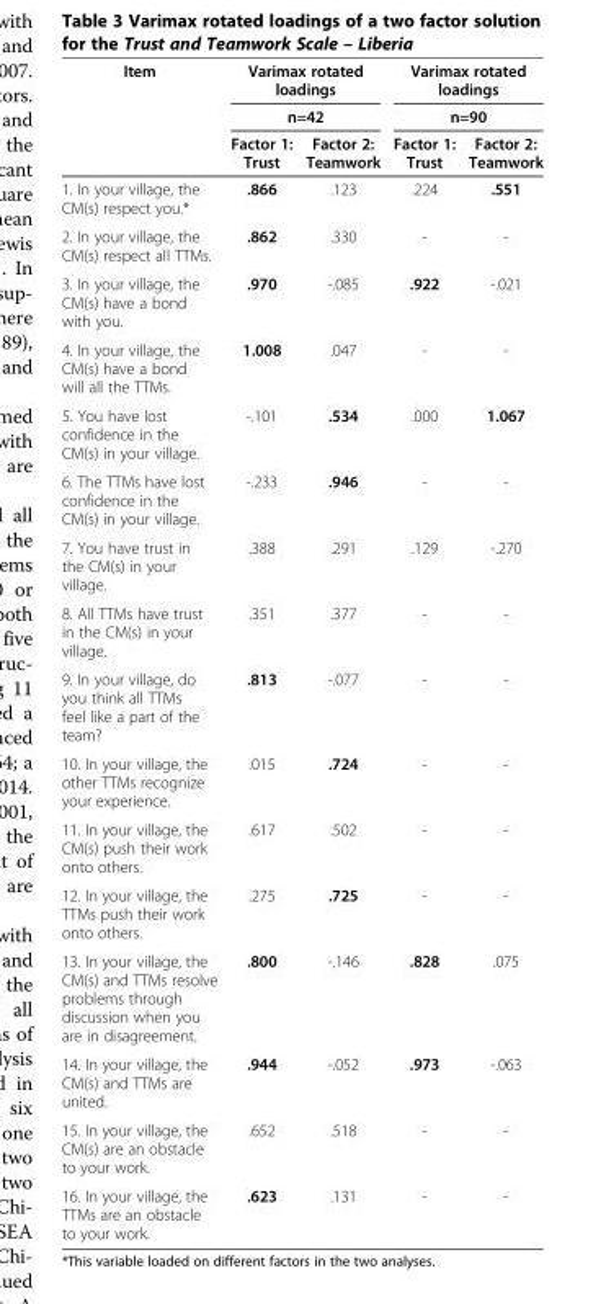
<table><thead><tr><td rowspan="3">Item</td><td rowspan="2" colspan="2">Varimax rotated loadings n=42</td><td rowspan="2" colspan="2">Varimax rotated loadings n=90</td></tr><tr></tr><tr><td>Factor 1: Trust</td><td>Factor 2: Teamwork</td><td>Factor 1: Trust</td><td>Factor 2: Teamwork</td></tr></thead><tbody><tr><td>1. In your village, the CM(s) respect you.*</td><td>.866</td><td>.123</td><td>.224</td><td>.551</td></tr><tr><td>2. In your village, the CM(s) respect all TTMs.</td><td>.862</td><td>.330</td><td>-</td><td>-</td></tr><tr><td>3. In your village, the CM(s) have a bond with you.</td><td>.970</td><td>-.085</td><td>.922</td><td>-.021</td></tr><tr><td>4. In your village, the CM(s) have a bond will all the TTMs.</td><td>1.008</td><td>.047</td><td>-</td><td>-</td></tr><tr><td>5. You have lost confidence in the CM(s) in your village.</td><td>-.101</td><td>.534</td><td>.000</td><td>1.067</td></tr><tr><td>6. The TTMs have lost confidence in the CM(s) in your village.</td><td>-.233</td><td>.946</td><td>-</td><td>-</td></tr><tr><td>7. You have trust in the CM(s) in your village.</td><td>.388</td><td>.291</td><td>.129</td><td>-.270</td></tr><tr><td>8. All TTMs have trust in the CM(s) in your village.</td><td>.351</td><td>.377</td><td>-</td><td>-</td></tr><tr><td>9. In your village, do you think all TTMs feel like a part of the team?</td><td>.813</td><td>-.077</td><td>-</td><td>-</td></tr><tr><td>10. In your village, the other TTMs recognize your experience.</td><td>.015</td><td>.724</td><td>-</td><td>-</td></tr><tr><td>11. In your village, the CM(s) push their work onto others.</td><td>.617</td><td>.502</td><td>-</td><td>-</td></tr><tr><td>12. In your village, the TTMs push their work onto others.</td><td>.275</td><td>.725</td><td>-</td><td>-</td></tr><tr><td>13. In your village, the CM(s) and TTMs resolve problems through discussion when you are in disagreement.</td><td>.800</td><td>-.146</td><td>.828</td><td>.075</td></tr><tr><td>14. In your village, the CM(s) and TTMs are united.</td><td>.944</td><td>-.052</td><td>.973</td><td>-.063</td></tr><tr><td>15. In your village, the CM(s) are an obstacle to your work.</td><td>.652</td><td>.518</td><td>-</td><td>-</td></tr><tr><td>16. In your village, the TTMs are an obstacle to your work.</td><td>.623</td><td>.131</td><td>-</td><td>-</td></tr></tbody></table>